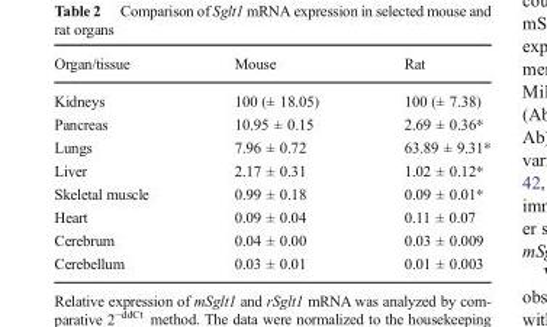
<table><thead><tr><td>Organ/tissue</td><td>Mouse</td><td>Rat</td></tr></thead><tbody><tr><td>Kidneys</td><td>100 (± 18.05)</td><td>100 (± 7.38)</td></tr><tr><td>Pancreas</td><td>10.95 ± 0.15</td><td>2.69 ± 0.36*</td></tr><tr><td>Lungs</td><td>7.96 ± 0.72</td><td>63.89 ± 9.31*</td></tr><tr><td>Liver</td><td>2.17 ± 0.31</td><td>1.02 ± 0.12*</td></tr><tr><td>Skeletal muscle</td><td>0.99 ± 0.18</td><td>0.09 ± 0.01*</td></tr><tr><td>Heart</td><td>0.09 ± 0.04</td><td>0.11 ± 0.07</td></tr><tr><td>Cerebrum</td><td>0.04 ± 0.00</td><td>0.03 ± 0.009</td></tr><tr><td>Cerebellum</td><td>0.03 ± 0.01</td><td>0.01 ± 0.003</td></tr></tbody></table>